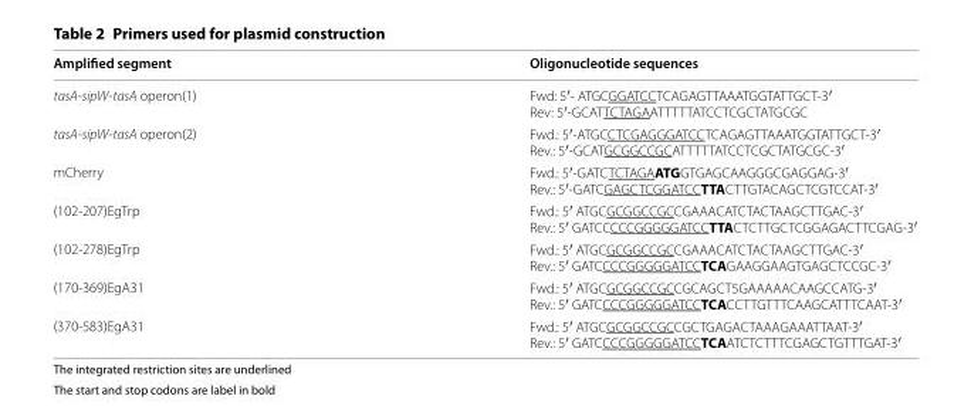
<table><thead><tr><td>Amplified segment</td><td>Oligonucleotide sequences</td></tr></thead><tbody><tr><td>tasA-sipW-tasA operon(1)</td><td>Fwd: 5′- ATGCGGATCCTCAGAGTTAAATGGTATTGCT-3′ Rev: 5′-GCATTCTAGAATTTTTATCCTCGCTATGCGC</td></tr><tr><td>tasA-sipW-tasA operon(2)</td><td>Fwd.: 5′-ATGCCTCGAGGGATCCTCAGAGTTAAATGGTATTGCT-3′ Rev.: 5′-GCATGCGGCCGCATTTTTATCCTCGCTATGCGC-3′</td></tr><tr><td>mCherry</td><td>Fwd.: 5′-GATCTCTAGAATGGTGAGCAAGGGCGAGGAG-3′ Rev.: 5′-GATCGAGCTCGGATCCTTACTTGTACAGCTCGTCCAT-3′</td></tr><tr><td>(102-207)EgTrp</td><td>Fwd.: 5′ ATGCGCGGCCGCCGAAACATCTACTAAGCTTGAC-3′ Rev.: 5′ GATCCCCCGGGGGATCCTTACTCTTGCTCGGAGACTTCGAG-3′</td></tr><tr><td>(102-278)EgTrp</td><td>Fwd.: 5′ ATGCGCGGCCGCCGAAACATCTACTAAGCTTGAC-3′ Rev.: 5′ GATCCCCGGGGGATCCTCAGAAGGAAGTGAGCTCCGC-3′</td></tr><tr><td>(170-369)EgA31</td><td>Fwd.: 5′ ATGCGCGGCCGCCGCAGCT5GAAAAACAAGCCATG-3′ Rev.: 5′ GATCCCCGGGGGATCCTCACCTTGTTTCAAGCATTTCAAT-3′</td></tr><tr><td>(370-583)EgA31</td><td>Fwd.: 5′ ATGCGCGGCCGCCGCTGAGACTAAAGAAATTAAT-3′ Rev.: 5′ GATCCCCGGGGGATCCTCAATCTCTTTCGAGCTGTTTGAT-3′</td></tr></tbody></table>